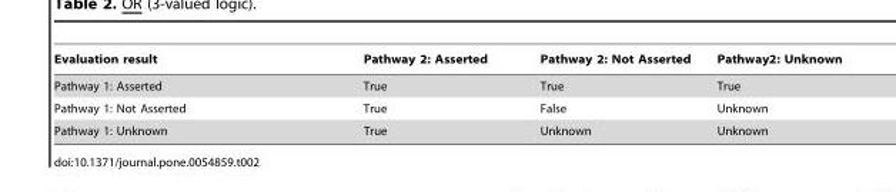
<table><thead><tr><td>Evaluation result</td><td>Pathway 2: Asserted</td><td>Pathway 2: Not Asserted</td><td>Pathway2: Unknown</td></tr></thead><tbody><tr><td>Pathway 1: Asserted</td><td>True</td><td>True</td><td>True</td></tr><tr><td>Pathway 1: Not Asserted</td><td>True</td><td>False</td><td>Unknown</td></tr><tr><td>Pathway 1: Unknown</td><td>True</td><td>Unknown</td><td>Unknown</td></tr></tbody></table>